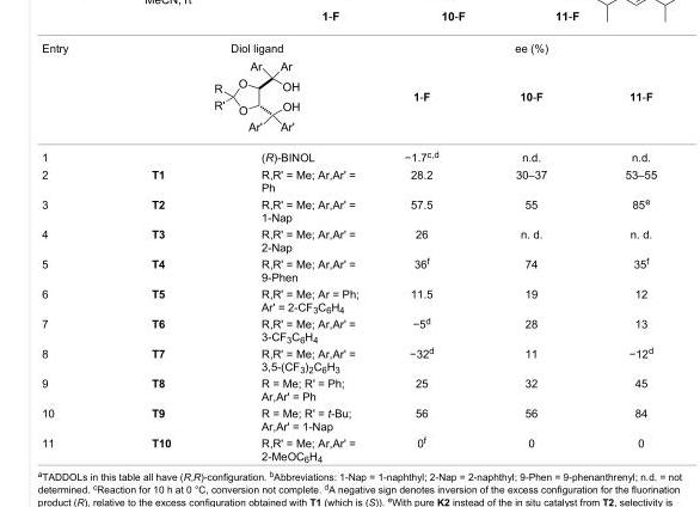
<table><tbody><tr><td rowspan="2">Entry</td><td colspan="2">Diol ligand</td><td colspan="3">ee (%)</td></tr><tr><td colspan="2"></td><td>1-F</td><td>10-F</td><td>11-F</td></tr><tr><td>1</td><td></td><td>(R)-BINOL</td><td>−1.7<sup>c,d</sup></td><td>n.d.</td><td>n.d.</td></tr><tr><td>2</td><td>T1</td><td>R,R&#x27; = Me; Ar,Ar&#x27; = Ph</td><td>28.2</td><td>30–37</td><td>53–55</td></tr><tr><td>3</td><td>T2</td><td>R,R&#x27; = Me; Ar,Ar&#x27; = 1-Nap</td><td>57.5</td><td>55</td><td>85<sup>e</sup></td></tr><tr><td>4</td><td>T3</td><td>R,R&#x27; = Me; Ar,Ar&#x27; = 2-Nap</td><td>26</td><td>n. d.</td><td>n. d.</td></tr><tr><td>5</td><td>T4</td><td>R,R&#x27; = Me; Ar,Ar&#x27; = 9-Phen</td><td>36<sup>f</sup></td><td>74</td><td>35<sup>f</sup></td></tr><tr><td>6</td><td>T5</td><td>R,R&#x27; = Me; Ar = Ph; Ar&#x27; = 2-CF<sub>3</sub>C<sub>6</sub>H<sub>4</sub></td><td>11.5</td><td>19</td><td>12</td></tr><tr><td>7</td><td>T6</td><td>R,R&#x27; = Me; Ar,Ar&#x27; = 3-CF<sub>3</sub>C<sub>6</sub>H<sub>4</sub></td><td>−5<sup>d</sup></td><td>28</td><td>13</td></tr><tr><td>8</td><td>T7</td><td>R,R&#x27; = Me; Ar,Ar&#x27; = 3,5-(CF<sub>3</sub>)<sub>2</sub>C<sub>6</sub>H<sub>3</sub></td><td>−32<sup>d</sup></td><td>11</td><td>−12<sup>d</sup></td></tr><tr><td>9</td><td>T8</td><td>R = Me; R&#x27; = Ph; Ar,Ar&#x27; = Ph</td><td>25</td><td>32</td><td>45</td></tr><tr><td>10</td><td>T9</td><td>R = Me; R&#x27; = t-Bu; Ar,Ar&#x27; = 1-Nap</td><td>56</td><td>56</td><td>84</td></tr><tr><td>11</td><td>T10</td><td>R,R&#x27; = Me; Ar,Ar&#x27; = 2-MeOC<sub>6</sub>H<sub>4</sub></td><td>0<sup>f</sup></td><td>0</td><td>0</td></tr></tbody></table>